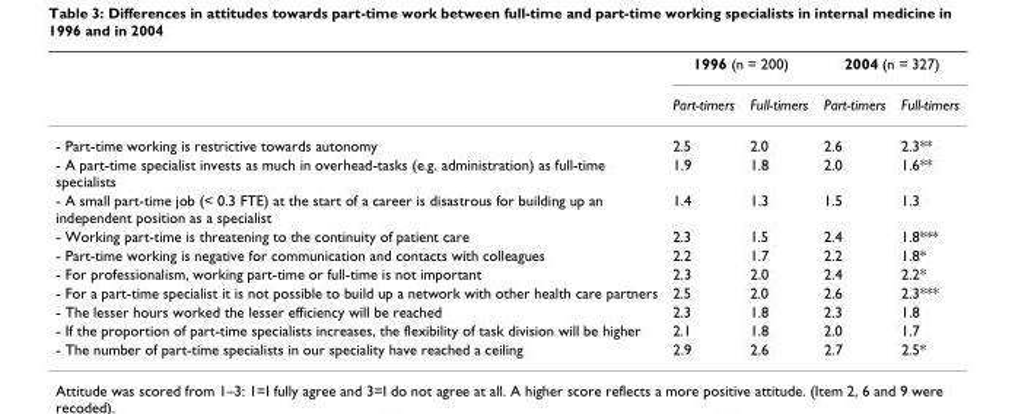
<table><thead><tr><td rowspan="2"></td><td colspan="2">1996 (n = 200)</td><td colspan="2">2004 (n = 327)</td></tr><tr><td>Part-timers</td><td>Full-timers</td><td>Part-timers</td><td>Full-timers</td></tr></thead><tbody><tr><td>- Part-time working is restrictive towards autonomy</td><td>2.5</td><td>2.0</td><td>2.6</td><td>2.3**</td></tr><tr><td>- A part-time specialist invests as much in overhead-tasks (e.g. administration) as full-time specialists</td><td>1.9</td><td>1.8</td><td>2.0</td><td>1.6**</td></tr><tr><td>- A small part-time job (&lt; 0.3 FTE) at the start of a career is disastrous for building up an independent position as a specialist</td><td>1.4</td><td>1.3</td><td>1.5</td><td>1.3</td></tr><tr><td>- Working part-time is threatening to the continuity of patient care</td><td>2.3</td><td>1.5</td><td>2.4</td><td>1.8***</td></tr><tr><td>- Part-time working is negative for communication and contacts with colleagues</td><td>2.2</td><td>1.7</td><td>2.2</td><td>1.8*</td></tr><tr><td>- For professionalism, working part-time or full-time is not important</td><td>2.3</td><td>2.0</td><td>2.4</td><td>2.2*</td></tr><tr><td>- For a part-time specialist it is not possible to build up a network with other health care partners</td><td>2.5</td><td>2.0</td><td>2.6</td><td>2.3***</td></tr><tr><td>- The lesser hours worked the lesser efficiency will be reached</td><td>2.3</td><td>1.8</td><td>2.3</td><td>1.8</td></tr><tr><td>- If the proportion of part-time specialists increases, the flexibility of task division will be higher</td><td>2.1</td><td>1.8</td><td>2.0</td><td>1.7</td></tr><tr><td>- The number of part-time specialists in our speciality have reached a ceiling</td><td>2.9</td><td>2.6</td><td>2.7</td><td>2.5*</td></tr></tbody></table>